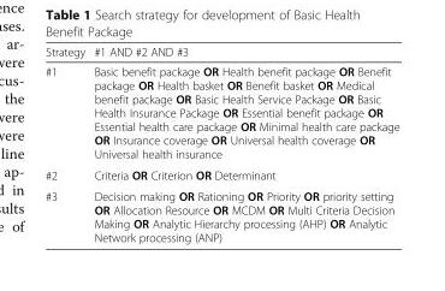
<table><thead><tr><td>Strategy</td><td>#1 AND #2 AND #3</td></tr></thead><tbody><tr><td>#1</td><td>Basic benefit package OR Health benefit package OR Benefit package OR Health basket OR Benefit basket OR Medical benefit package OR Basic Health Service Package OR Basic Health Insurance Package OR Essential benefit package OR Essential health care package OR Minimal health care package OR Insurance coverage OR Universal health coverage OR Universal health insurance</td></tr><tr><td>#2</td><td>Criteria OR Criterion OR Determinant</td></tr><tr><td>#3</td><td>Decision making OR Rationing OR Priority OR priority setting OR Allocation Resource OR MCDM OR Multi Criteria Decision Making OR Analytic Hierarchy processing (AHP) OR Analytic Network processing (ANP)</td></tr></tbody></table>